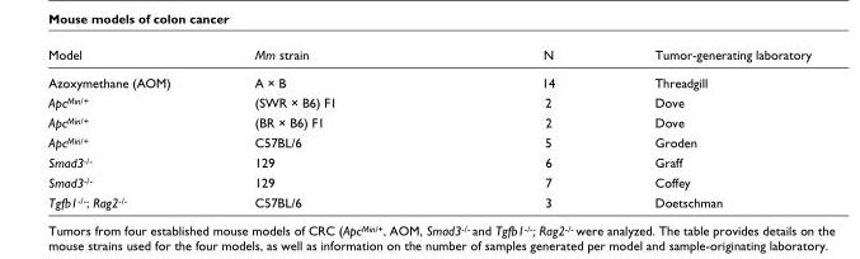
<table><thead><tr><td>Model</td><td>Mm strain</td><td>N</td><td>Tumor-generating laboratory</td></tr></thead><tbody><tr><td>Azoxymethane (AOM)</td><td>A × B</td><td>14</td><td>Threadgill</td></tr><tr><td>Apc<sup>Min/+</sup></td><td>(SWR × B6) F1</td><td>2</td><td>Dove</td></tr><tr><td>Apc<sup>Min/+</sup></td><td>(BR × B6) F1</td><td>2</td><td>Dove</td></tr><tr><td>Apc<sup>Min/+</sup></td><td>C57BL/6</td><td>5</td><td>Groden</td></tr><tr><td>Smad3<sup>-/-</sup></td><td>129</td><td>6</td><td>Graff</td></tr><tr><td>Smad3<sup>-/-</sup></td><td>129</td><td>7</td><td>Coffey</td></tr><tr><td>Tgfb1<sup>-/-</sup>; Rag2<sup>-/-</sup></td><td>C57BL/6</td><td>3</td><td>Doetschman</td></tr></tbody></table>